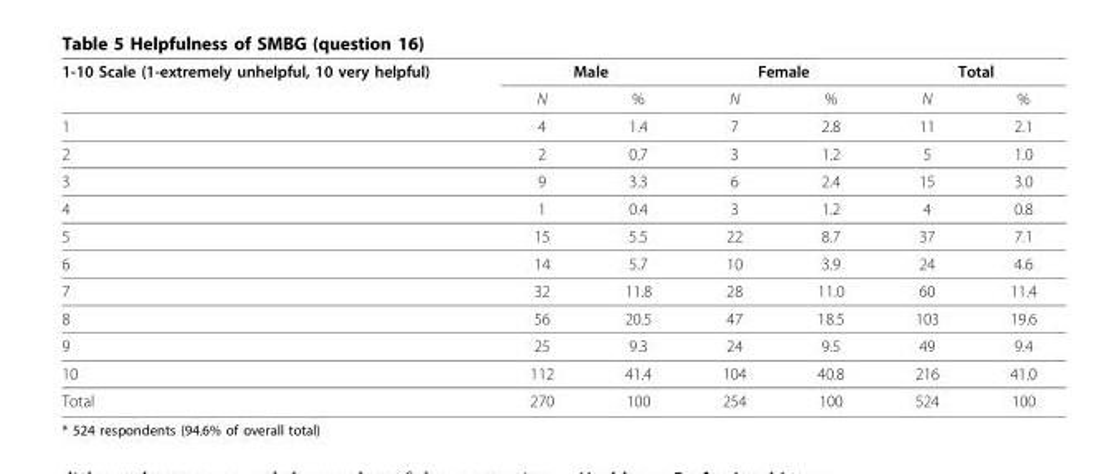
<table><thead><tr><td rowspan="2">1-10 Scale (1-extremely unhelpful, 10 very helpful)</td><td colspan="2">Male</td><td colspan="2">Female</td><td colspan="2">Total</td></tr><tr><td>N</td><td>%</td><td>N</td><td>%</td><td>N</td><td>%</td></tr></thead><tbody><tr><td>1</td><td>4</td><td>1.4</td><td>7</td><td>2.8</td><td>11</td><td>2.1</td></tr><tr><td>2</td><td>2</td><td>0.7</td><td>3</td><td>1.2</td><td>5</td><td>1.0</td></tr><tr><td>3</td><td>9</td><td>3.3</td><td>6</td><td>2.4</td><td>15</td><td>3.0</td></tr><tr><td>4</td><td>1</td><td>0.4</td><td>3</td><td>1.2</td><td>4</td><td>0.8</td></tr><tr><td>5</td><td>15</td><td>5.5</td><td>22</td><td>8.7</td><td>37</td><td>7.1</td></tr><tr><td>6</td><td>14</td><td>5.7</td><td>10</td><td>3.9</td><td>24</td><td>4.6</td></tr><tr><td>7</td><td>32</td><td>11.8</td><td>28</td><td>11.0</td><td>60</td><td>11.4</td></tr><tr><td>8</td><td>56</td><td>20.5</td><td>47</td><td>18.5</td><td>103</td><td>19.6</td></tr><tr><td>9</td><td>25</td><td>9.3</td><td>24</td><td>9.5</td><td>49</td><td>9.4</td></tr><tr><td>10</td><td>112</td><td>41.4</td><td>104</td><td>40.8</td><td>216</td><td>41.0</td></tr><tr><td>Total</td><td>270</td><td>100</td><td>254</td><td>100</td><td>524</td><td>100</td></tr></tbody></table>